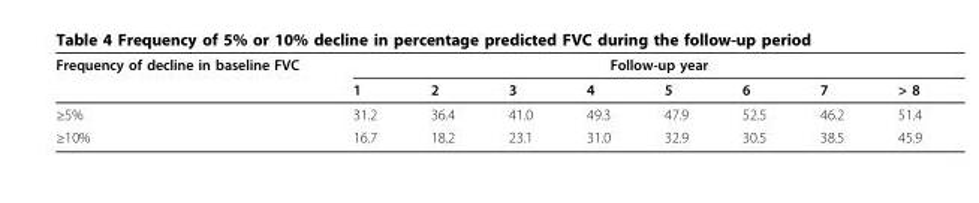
<table><thead><tr><td rowspan="2">Frequency of decline in baseline FVC</td><td colspan="8">Follow-up year</td></tr><tr><td>1</td><td>2</td><td>3</td><td>4</td><td>5</td><td>6</td><td>7</td><td>&gt; 8</td></tr></thead><tbody><tr><td>≥5%</td><td>31.2</td><td>36.4</td><td>41.0</td><td>49.3</td><td>47.9</td><td>52.5</td><td>46.2</td><td>51.4</td></tr><tr><td>≥10%</td><td>16.7</td><td>18.2</td><td>23.1</td><td>31.0</td><td>32.9</td><td>30.5</td><td>38.5</td><td>45.9</td></tr></tbody></table>